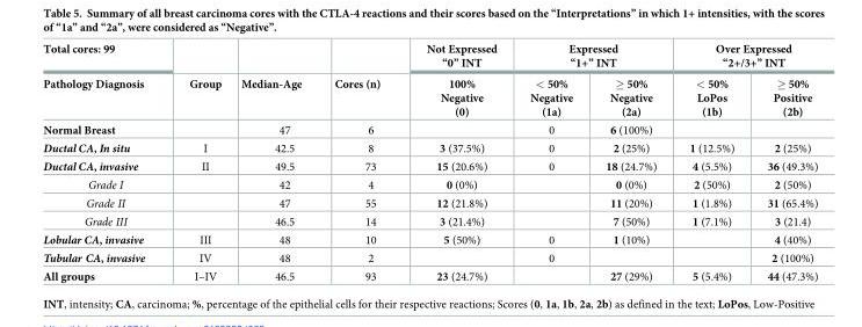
<table><thead><tr><td rowspan="2">Total cores: 99 Pathology Diagnosis</td><td rowspan="2">Group</td><td rowspan="2">Median-Age</td><td rowspan="2">Cores (n)</td><td rowspan="2">Not Expressed “0” INT 100% Negative (0)</td><td colspan="2">Expressed “1+” INT</td><td colspan="2">Over Expressed “2+/3+” INT</td></tr><tr><td>&lt; 50% Negative (1a)</td><td>≥ 50% Negative (2a)</td><td>&lt; 50% LoPos (1b)</td><td>≥ 50% Positive (2b)</td></tr></thead><tbody><tr><td>Normal Breast</td><td></td><td>47</td><td>6</td><td></td><td>0</td><td>6 (100%)</td><td></td><td></td></tr><tr><td>Ductal CA, In situ</td><td>I</td><td>42.5</td><td>8</td><td>3 (37.5%)</td><td>0</td><td>2 (25%)</td><td>1 (12.5%)</td><td>2 (25%)</td></tr><tr><td>Ductal CA, invasive</td><td>II</td><td>49.5</td><td>73</td><td>15 (20.6%)</td><td>0</td><td>18 (24.7%)</td><td>4 (5.5%)</td><td>36 (49.3%)</td></tr><tr><td>Grade I</td><td></td><td>42</td><td>4</td><td>0 (0%)</td><td></td><td>0 (0%)</td><td>2 (50%)</td><td>2 (50%)</td></tr><tr><td>Grade II</td><td></td><td>47</td><td>55</td><td>12 (21.8%)</td><td></td><td>11 (20%)</td><td>1 (1.8%)</td><td>31 (65.4%)</td></tr><tr><td>Grade III</td><td></td><td>46.5</td><td>14</td><td>3 (21.4%)</td><td></td><td>7 (50%)</td><td>1 (7.1%)</td><td>3 (21.4)</td></tr><tr><td>Lobular CA, invasive</td><td>III</td><td>48</td><td>10</td><td>5 (50%)</td><td>0</td><td>1 (10%)</td><td></td><td>4 (40%)</td></tr><tr><td>Tubular CA, invasive</td><td>IV</td><td>48</td><td>2</td><td></td><td>0</td><td></td><td></td><td>2 (100%)</td></tr><tr><td>All groups</td><td>I–IV</td><td>46.5</td><td>93</td><td>23 (24.7%)</td><td></td><td>27 (29%)</td><td>5 (5.4%)</td><td>44 (47.3%)</td></tr></tbody></table>